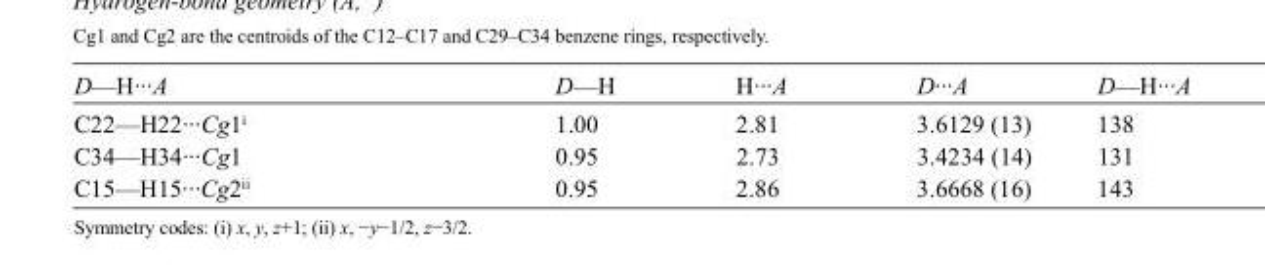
<table><tbody><tr><td>D—H···A</td><td>D—H</td><td>H···A</td><td>D···A</td><td>D—H···A</td></tr><tr><td>C22—H22···Cg1<sup>i</sup></td><td>1.00</td><td>2.81</td><td>3.6129 (13)</td><td>138</td></tr><tr><td>C34—H34···Cg1</td><td>0.95</td><td>2.73</td><td>3.4234 (14)</td><td>131</td></tr><tr><td>C15—H15···Cg2<sup>ii</sup></td><td>0.95</td><td>2.86</td><td>3.6668 (16)</td><td>143</td></tr></tbody></table>